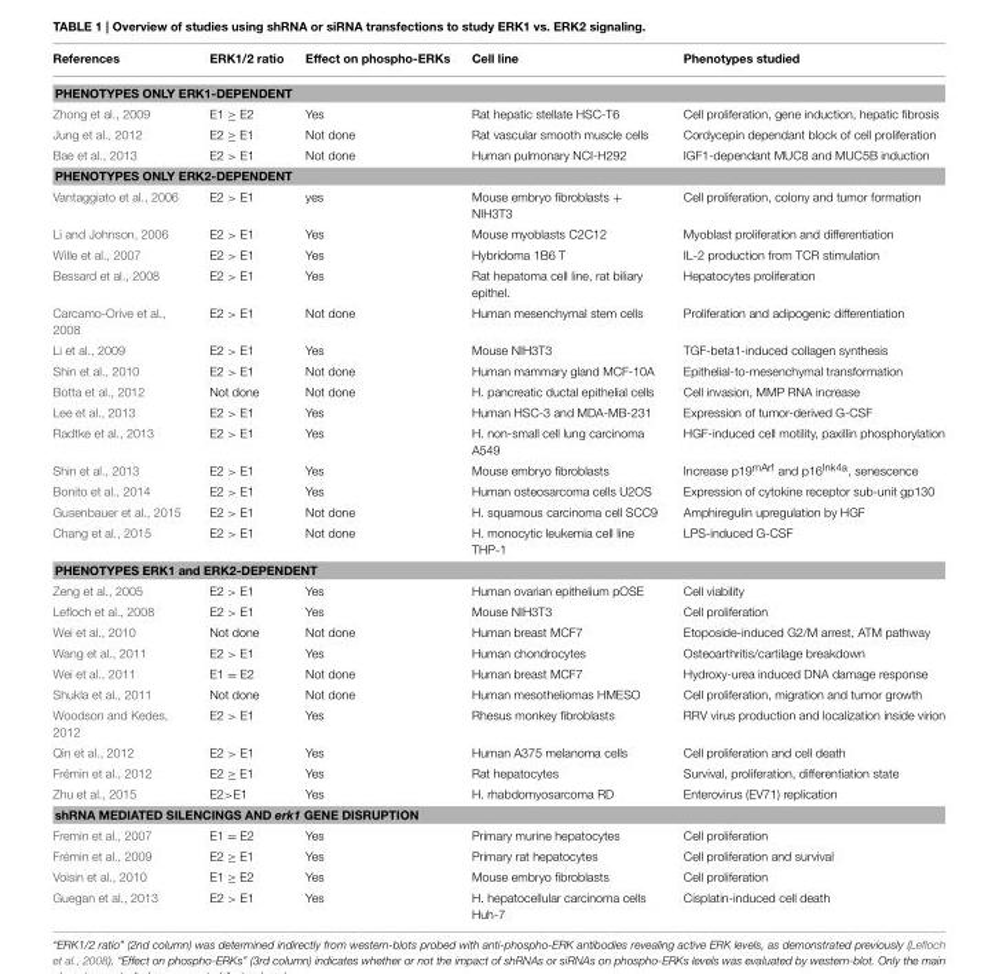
<table><thead><tr><td>References</td><td>ERK1/2 ratio</td><td>Effect on phospho-ERKs</td><td>Cell line</td><td>Phenotypes studied</td></tr></thead><tbody><tr><td colspan="5">PHENOTYPES ONLY ERK1-DEPENDENT</td></tr><tr><td>Zhong et al., 2009</td><td>E1 ≥ E2</td><td>Yes</td><td>Rat hepatic stellate HSC-T6</td><td>Cell proliferation, gene induction, hepatic fibrosis</td></tr><tr><td>Jung et al., 2012</td><td>E2 ≥ E1</td><td>Not done</td><td>Rat vascular smooth muscle cells</td><td>Cordycepin dependant block of cell proliferation</td></tr><tr><td>Bae et al., 2013</td><td>E2 &gt; E1</td><td>Not done</td><td>Human pulmonary NCI-H292</td><td>IGF1-dependant MUC8 and MUC5B induction</td></tr><tr><td colspan="5">PHENOTYPES ONLY ERK2-DEPENDENT</td></tr><tr><td>Vantaggiato et al., 2006</td><td>E2 &gt; E1</td><td>yes</td><td>Mouse embryo fibroblasts + NIH3T3</td><td>Cell proliferation, colony and tumor formation</td></tr><tr><td>Li and Johnson, 2006</td><td>E2 &gt; E1</td><td>Yes</td><td>Mouse myoblasts C2C12</td><td>Myoblast proliferation and differentiation</td></tr><tr><td>Wille et al., 2007</td><td>E2 &gt; E1</td><td>Yes</td><td>Hybridoma 1B6 T</td><td>IL-2 production from TCR stimulation</td></tr><tr><td>Bessard et al., 2008</td><td>E2 &gt; E1</td><td>Yes</td><td>Rat hepatoma cell line, rat biliary epithel.</td><td>Hepatocytes proliferation</td></tr><tr><td>Carcamo-Orive et al., 2008</td><td>E2 &gt; E1</td><td>Not done</td><td>Human mesenchymal stem cells</td><td>Proliferation and adipogenic differentiation</td></tr><tr><td>Li et al., 2009</td><td>E2 &gt; E1</td><td>Yes</td><td>Mouse NIH3T3</td><td>TGF-beta1-induced collagen synthesis</td></tr><tr><td>Shin et al., 2010</td><td>E2 &gt; E1</td><td>Not done</td><td>Human mammary gland MCF-10A</td><td>Epithelial-to-mesenchymal transformation</td></tr><tr><td>Botta et al., 2012</td><td>Not done</td><td>Not done</td><td>H. pancreatic ductal epithelial cells</td><td>Cell invasion, MMP RNA increase</td></tr><tr><td>Lee et al., 2013</td><td>E2 &gt; E1</td><td>Yes</td><td>Human HSC-3 and MDA-MB-231</td><td>Expression of tumor-derived G-CSF</td></tr><tr><td>Radtke et al., 2013</td><td>E2 &gt; E1</td><td>Yes</td><td>H. non-small cell lung carcinoma A549</td><td>HGF-induced cell motility, paxillin phosphorylation</td></tr><tr><td>Shin et al., 2013</td><td>E2 &gt; E1</td><td>Yes</td><td>Mouse embryo fibroblasts</td><td>Increase p19<sup>mArf</sup> and p16<sup>Ink4a</sup>, senescence</td></tr><tr><td>Bonito et al., 2014</td><td>E2 &gt; E1</td><td>Yes</td><td>Human osteosarcoma cells U2OS</td><td>Expression of cytokine receptor sub-unit gp130</td></tr><tr><td>Gusenbauer et al., 2015</td><td>E2 &gt; E1</td><td>Not done</td><td>H. squamous carcinoma cell SCC9</td><td>Amphiregulin upregulation by HGF</td></tr><tr><td>Chang et al., 2015</td><td>E2 &gt; E1</td><td>Not done</td><td>H. monocytic leukemia cell line THP-1</td><td>LPS-induced G-CSF</td></tr><tr><td colspan="5">PHENOTYPES ERK1 and ERK2-DEPENDENT</td></tr><tr><td>Zeng et al., 2005</td><td>E2 &gt; E1</td><td>Yes</td><td>Human ovarian epithelium pOSE</td><td>Cell viability</td></tr><tr><td>Lefloch et al., 2008</td><td>E2 &gt; E1</td><td>Yes</td><td>Mouse NIH3T3</td><td>Cell proliferation</td></tr><tr><td>Wei et al., 2010</td><td>Not done</td><td>Not done</td><td>Human breast MCF7</td><td>Etoposide-induced G2/M arrest, ATM pathway</td></tr><tr><td>Wang et al., 2011</td><td>E2 &gt; E1</td><td>Yes</td><td>Human chondrocytes</td><td>Osteoarthritis/cartilage breakdown</td></tr><tr><td>Wei et al., 2011</td><td>E1 = E2</td><td>Not done</td><td>Human breast MCF7</td><td>Hydroxy-urea induced DNA damage response</td></tr><tr><td>Shukla et al., 2011</td><td>Not done</td><td>Not done</td><td>Human mesotheliomas HMESO</td><td>Cell proliferation, migration and tumor growth</td></tr><tr><td>Woodson and Kedes, 2012</td><td>E2 &gt; E1</td><td>Yes</td><td>Rhesus monkey fibroblasts</td><td>RRV virus production and localization inside virion</td></tr><tr><td>Qin et al., 2012</td><td>E2 &gt; E1</td><td>Yes</td><td>Human A375 melanoma cells</td><td>Cell proliferation and cell death</td></tr><tr><td>Frémin et al., 2012</td><td>E2 ≥ E1</td><td>Yes</td><td>Rat hepatocytes</td><td>Survival, proliferation, differentiation state</td></tr><tr><td>Zhu et al., 2015</td><td>E2&gt;E1</td><td>Yes</td><td>H. rhabdomyosarcoma RD</td><td>Enterovirus (EV71) replication</td></tr><tr><td colspan="5">shRNA MEDIATED SILENCINGS AND erk1 GENE DISRUPTION</td></tr><tr><td>Fremin et al., 2007</td><td>E1 = E2</td><td>Yes</td><td>Primary murine hepatocytes</td><td>Cell proliferation</td></tr><tr><td>Frémin et al., 2009</td><td>E2 ≥ E1</td><td>Yes</td><td>Primary rat hepatocytes</td><td>Cell proliferation and survival</td></tr><tr><td>Voisin et al., 2010</td><td>E1 ≥ E2</td><td>Yes</td><td>Mouse embryo fibroblasts</td><td>Cell proliferation</td></tr><tr><td>Guegan et al., 2013</td><td>E2 &gt; E1</td><td>Yes</td><td>H. hepatocellular carcinoma cells Huh-7</td><td>Cisplatin-induced cell death</td></tr></tbody></table>